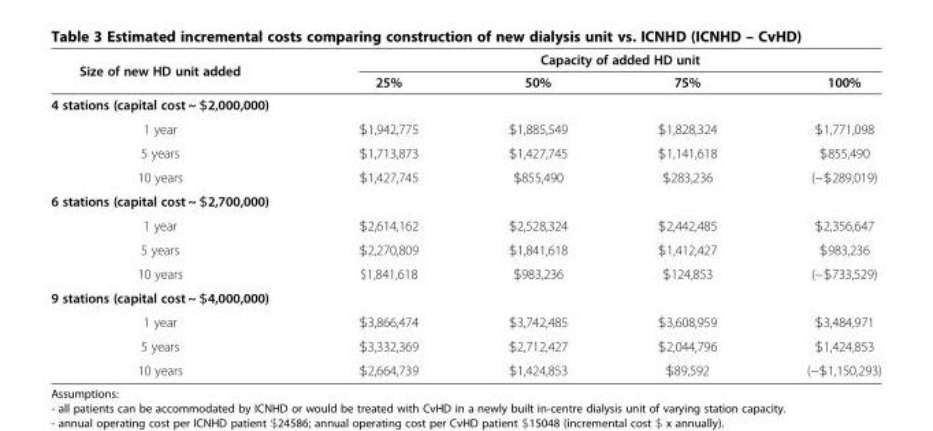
<table><thead><tr><td rowspan="2">Size of new HD unit added</td><td colspan="4">Capacity of added HD unit</td></tr><tr><td>25%</td><td>50%</td><td>75%</td><td>100%</td></tr></thead><tbody><tr><td colspan="5">4 stations (capital cost ~ $2,000,000)</td></tr><tr><td>1 year</td><td>$1,942,775</td><td>$1,885,549</td><td>$1,828,324</td><td>$1,771,098</td></tr><tr><td>5 years</td><td>$1,713,873</td><td>$1,427,745</td><td>$1,141,618</td><td>$855,490</td></tr><tr><td>10 years</td><td>$1,427,745</td><td>$855,490</td><td>$283,236</td><td>(−$289,019)</td></tr><tr><td colspan="5">6 stations (capital cost ~ $2,700,000)</td></tr><tr><td>1 year</td><td>$2,614,162</td><td>$2,528,324</td><td>$2,442,485</td><td>$2,356,647</td></tr><tr><td>5 years</td><td>$2,270,809</td><td>$1,841,618</td><td>$1,412,427</td><td>$983,236</td></tr><tr><td>10 years</td><td>$1,841,618</td><td>$983,236</td><td>$124,853</td><td>(−$733,529)</td></tr><tr><td colspan="5">9 stations (capital cost ~ $4,000,000)</td></tr><tr><td>1 year</td><td>$3,866,474</td><td>$3,742,485</td><td>$3,608,959</td><td>$3,484,971</td></tr><tr><td>5 years</td><td>$3,332,369</td><td>$2,712,427</td><td>$2,044,796</td><td>$1,424,853</td></tr><tr><td>10 years</td><td>$2,664,739</td><td>$1,424,853</td><td>$89,592</td><td>(−$1,150,293)</td></tr></tbody></table>